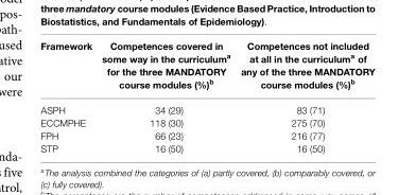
<table><thead><tr><td>Framework</td><td>Competences covered in some way in the curriculum<sup>a</sup> for the three MANDATORY course modules (%)<sup>b</sup></td><td>Competences not included at all in the curriculum<sup>a</sup> of any of the three MANDATORY course modules (%)<sup>b</sup></td></tr></thead><tbody><tr><td>ASPH</td><td>34 (29)</td><td>83 (71)</td></tr><tr><td>ECCMPHE</td><td>118 (30)</td><td>275 (70)</td></tr><tr><td>FPH</td><td>66 (23)</td><td>216 (77)</td></tr><tr><td>STP</td><td>16 (50)</td><td>16 (50)</td></tr></tbody></table>